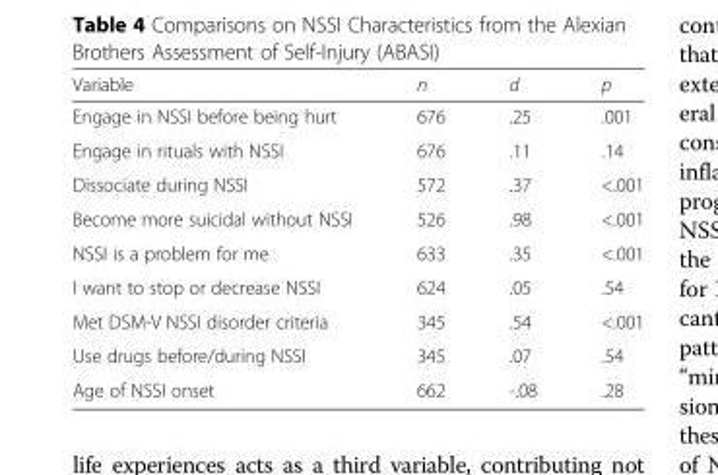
<table><thead><tr><td>Variable</td><td>n</td><td>d</td><td>p</td></tr></thead><tbody><tr><td>Engage in NSSI before being hurt</td><td>676</td><td>.25</td><td>.001</td></tr><tr><td>Engage in rituals with NSSI</td><td>676</td><td>.11</td><td>.14</td></tr><tr><td>Dissociate during NSSI</td><td>572</td><td>.37</td><td>&lt;.001</td></tr><tr><td>Become more suicidal without NSSI</td><td>526</td><td>.98</td><td>&lt;.001</td></tr><tr><td>NSSI is a problem for me</td><td>633</td><td>.35</td><td>&lt;.001</td></tr><tr><td>I want to stop or decrease NSSI</td><td>624</td><td>.05</td><td>.54</td></tr><tr><td>Met DSM-V NSSI disorder criteria</td><td>345</td><td>.54</td><td>&lt;.001</td></tr><tr><td>Use drugs before/during NSSI</td><td>345</td><td>.07</td><td>.54</td></tr><tr><td>Age of NSSI onset</td><td>662</td><td>-.08</td><td>.28</td></tr></tbody></table>